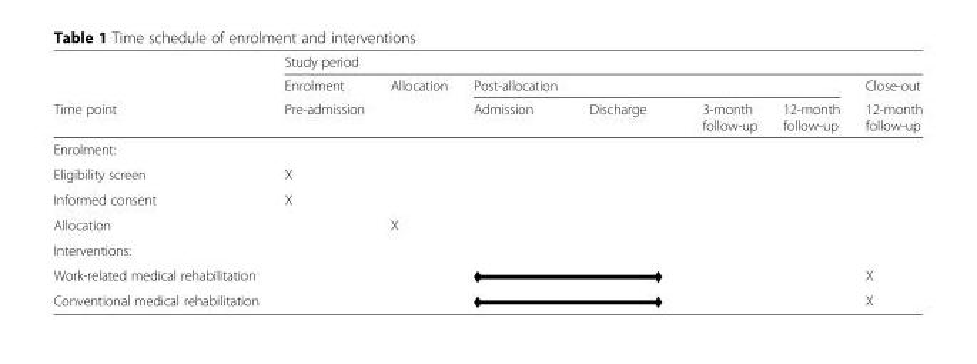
<table><thead><tr><td rowspan="3">Time point</td><td colspan="7">Study period</td></tr><tr><td rowspan="2">Enrolment Pre-admission</td><td rowspan="2">Allocation</td><td colspan="4">Post-allocation</td><td rowspan="2">Close-out 12-month follow-up</td></tr><tr><td>Admission</td><td>Discharge</td><td>3-month follow-up</td><td>12-month follow-up</td></tr></thead><tbody><tr><td colspan="8">Enrolment:</td></tr><tr><td>Eligibility screen</td><td>X</td><td></td><td></td><td></td><td></td><td></td><td></td></tr><tr><td>Informed consent</td><td>X</td><td></td><td></td><td></td><td></td><td></td><td></td></tr><tr><td>Allocation</td><td></td><td>X</td><td></td><td></td><td></td><td></td><td></td></tr><tr><td colspan="8">Interventions:</td></tr><tr><td>Work-related medical rehabilitation</td><td></td><td></td><td colspan="2"></td><td></td><td></td><td>X</td></tr><tr><td>Conventional medical rehabilitation</td><td></td><td></td><td colspan="2"></td><td></td><td></td><td>X</td></tr></tbody></table>